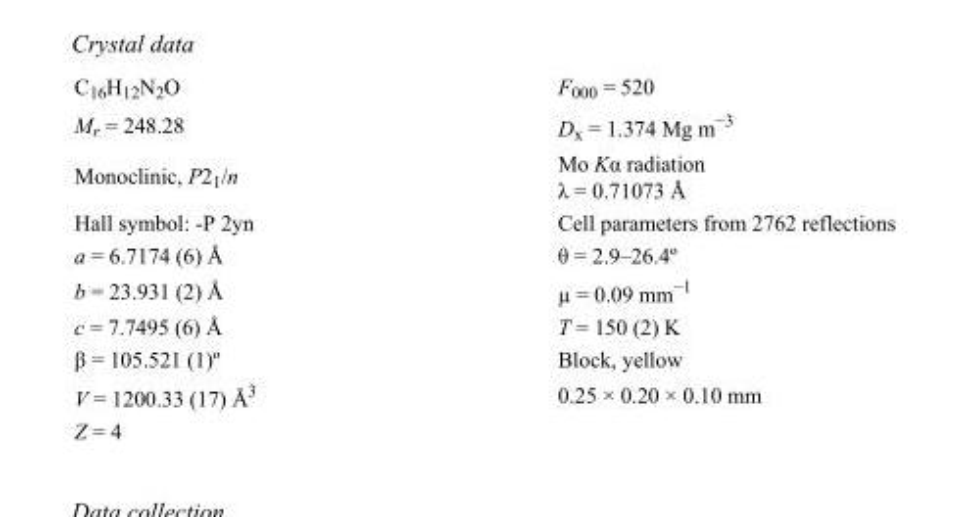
<table><tbody><tr><td>C<sub>16</sub>H<sub>12</sub>N<sub>2</sub>O</td><td>F000 = 520</td></tr><tr><td>M<sub>r</sub> = 248.28</td><td>D<sub>x</sub> = 1.374 Mg m<sup>−3</sup></td></tr><tr><td>Monoclinic, P2<sub>1</sub>/n</td><td>Mo Kα radiation λ = 0.71073 Å</td></tr><tr><td>Hall symbol: -P 2yn</td><td>Cell parameters from 2762 reflections</td></tr><tr><td>a = 6.7174 (6) Å</td><td>θ = 2.9–26.4º</td></tr><tr><td>b = 23.931 (2) Å</td><td>µ = 0.09 mm<sup>−1</sup></td></tr><tr><td>c = 7.7495 (6) Å</td><td>T = 150 (2) K</td></tr><tr><td>β = 105.521 (1)º</td><td>Block, yellow</td></tr><tr><td>V = 1200.33 (17) Å<sup>3</sup></td><td>0.25 × 0.20 × 0.10 mm</td></tr><tr><td>Z = 4</td><td></td></tr></tbody></table>